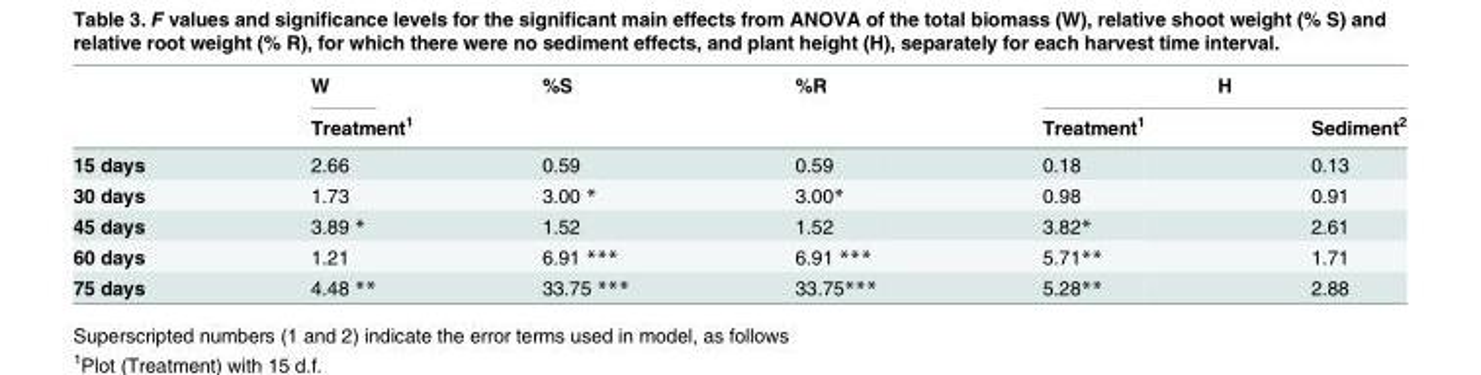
<table><thead><tr><td rowspan="2"></td><td>W</td><td>%S</td><td>%R</td><td colspan="2">H</td></tr><tr><td colspan="3">Treatment<sup>1</sup></td><td>Treatment<sup>1</sup></td><td>Sediment<sup>2</sup></td></tr></thead><tbody><tr><td>15 days</td><td>2.66</td><td>0.59</td><td>0.59</td><td>0.18</td><td>0.13</td></tr><tr><td>30 days</td><td>1.73</td><td>3.00 *</td><td>3.00*</td><td>0.98</td><td>0.91</td></tr><tr><td>45 days</td><td>3.89 *</td><td>1.52</td><td>1.52</td><td>3.82*</td><td>2.61</td></tr><tr><td>60 days</td><td>1.21</td><td>6.91 ***</td><td>6.91 ***</td><td>5.71**</td><td>1.71</td></tr><tr><td>75 days</td><td>4.48 **</td><td>33.75 ***</td><td>33.75***</td><td>5.28**</td><td>2.88</td></tr></tbody></table>